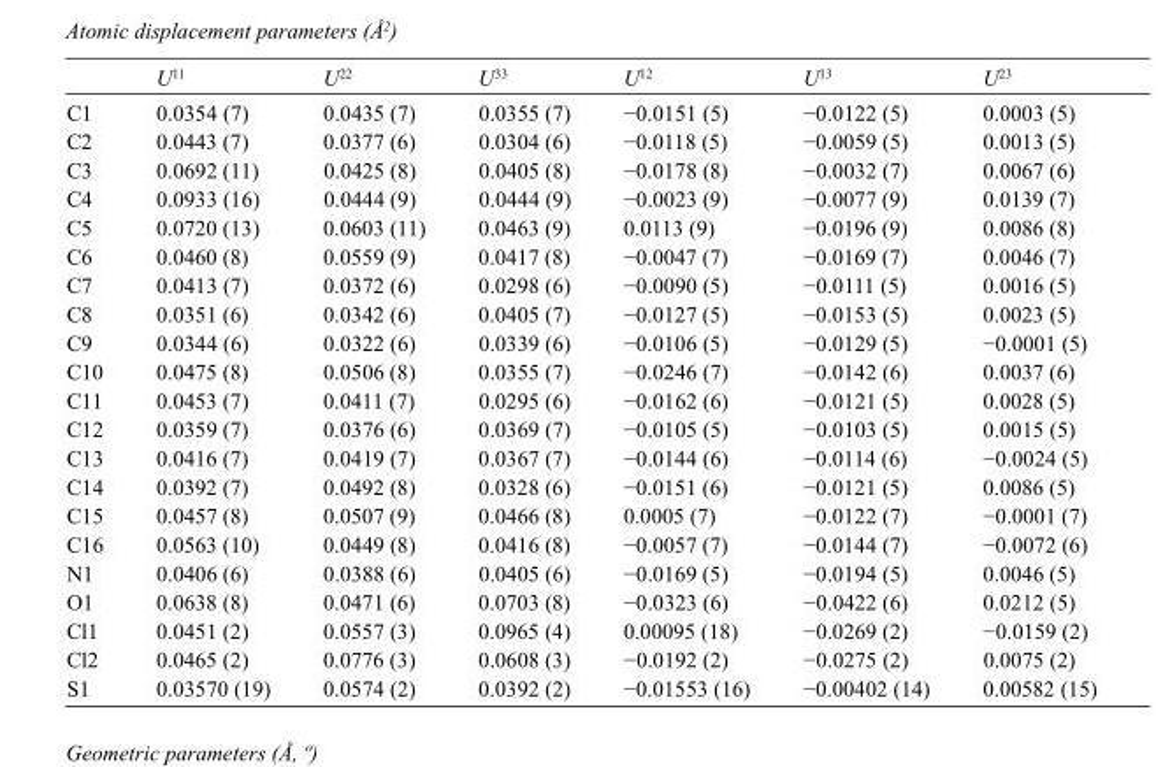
<table><thead><tr><td></td><td>U<sup>11</sup></td><td>U<sup>22</sup></td><td>U<sup>33</sup></td><td>U<sup>12</sup></td><td>U<sup>13</sup></td><td>U<sup>23</sup></td></tr></thead><tbody><tr><td>C1</td><td>0.0354 (7)</td><td>0.0435 (7)</td><td>0.0355 (7)</td><td>−0.0151 (5)</td><td>−0.0122 (5)</td><td>0.0003 (5)</td></tr><tr><td>C2</td><td>0.0443 (7)</td><td>0.0377 (6)</td><td>0.0304 (6)</td><td>−0.0118 (5)</td><td>−0.0059 (5)</td><td>0.0013 (5)</td></tr><tr><td>C3</td><td>0.0692 (11)</td><td>0.0425 (8)</td><td>0.0405 (8)</td><td>−0.0178 (8)</td><td>−0.0032 (7)</td><td>0.0067 (6)</td></tr><tr><td>C4</td><td>0.0933 (16)</td><td>0.0444 (9)</td><td>0.0444 (9)</td><td>−0.0023 (9)</td><td>−0.0077 (9)</td><td>0.0139 (7)</td></tr><tr><td>C5</td><td>0.0720 (13)</td><td>0.0603 (11)</td><td>0.0463 (9)</td><td>0.0113 (9)</td><td>−0.0196 (9)</td><td>0.0086 (8)</td></tr><tr><td>C6</td><td>0.0460 (8)</td><td>0.0559 (9)</td><td>0.0417 (8)</td><td>−0.0047 (7)</td><td>−0.0169 (7)</td><td>0.0046 (7)</td></tr><tr><td>C7</td><td>0.0413 (7)</td><td>0.0372 (6)</td><td>0.0298 (6)</td><td>−0.0090 (5)</td><td>−0.0111 (5)</td><td>0.0016 (5)</td></tr><tr><td>C8</td><td>0.0351 (6)</td><td>0.0342 (6)</td><td>0.0405 (7)</td><td>−0.0127 (5)</td><td>−0.0153 (5)</td><td>0.0023 (5)</td></tr><tr><td>C9</td><td>0.0344 (6)</td><td>0.0322 (6)</td><td>0.0339 (6)</td><td>−0.0106 (5)</td><td>−0.0129 (5)</td><td>−0.0001 (5)</td></tr><tr><td>C10</td><td>0.0475 (8)</td><td>0.0506 (8)</td><td>0.0355 (7)</td><td>−0.0246 (7)</td><td>−0.0142 (6)</td><td>0.0037 (6)</td></tr><tr><td>C11</td><td>0.0453 (7)</td><td>0.0411 (7)</td><td>0.0295 (6)</td><td>−0.0162 (6)</td><td>−0.0121 (5)</td><td>0.0028 (5)</td></tr><tr><td>C12</td><td>0.0359 (7)</td><td>0.0376 (6)</td><td>0.0369 (7)</td><td>−0.0105 (5)</td><td>−0.0103 (5)</td><td>0.0015 (5)</td></tr><tr><td>C13</td><td>0.0416 (7)</td><td>0.0419 (7)</td><td>0.0367 (7)</td><td>−0.0144 (6)</td><td>−0.0114 (6)</td><td>−0.0024 (5)</td></tr><tr><td>C14</td><td>0.0392 (7)</td><td>0.0492 (8)</td><td>0.0328 (6)</td><td>−0.0151 (6)</td><td>−0.0121 (5)</td><td>0.0086 (5)</td></tr><tr><td>C15</td><td>0.0457 (8)</td><td>0.0507 (9)</td><td>0.0466 (8)</td><td>0.0005 (7)</td><td>−0.0122 (7)</td><td>−0.0001 (7)</td></tr><tr><td>C16</td><td>0.0563 (10)</td><td>0.0449 (8)</td><td>0.0416 (8)</td><td>−0.0057 (7)</td><td>−0.0144 (7)</td><td>−0.0072 (6)</td></tr><tr><td>N1</td><td>0.0406 (6)</td><td>0.0388 (6)</td><td>0.0405 (6)</td><td>−0.0169 (5)</td><td>−0.0194 (5)</td><td>0.0046 (5)</td></tr><tr><td>O1</td><td>0.0638 (8)</td><td>0.0471 (6)</td><td>0.0703 (8)</td><td>−0.0323 (6)</td><td>−0.0422 (6)</td><td>0.0212 (5)</td></tr><tr><td>Cl1</td><td>0.0451 (2)</td><td>0.0557 (3)</td><td>0.0965 (4)</td><td>0.00095 (18)</td><td>−0.0269 (2)</td><td>−0.0159 (2)</td></tr><tr><td>Cl2</td><td>0.0465 (2)</td><td>0.0776 (3)</td><td>0.0608 (3)</td><td>−0.0192 (2)</td><td>−0.0275 (2)</td><td>0.0075 (2)</td></tr><tr><td>S1</td><td>0.03570 (19)</td><td>0.0574 (2)</td><td>0.0392 (2)</td><td>−0.01553 (16)</td><td>−0.00402 (14)</td><td>0.00582 (15)</td></tr></tbody></table>